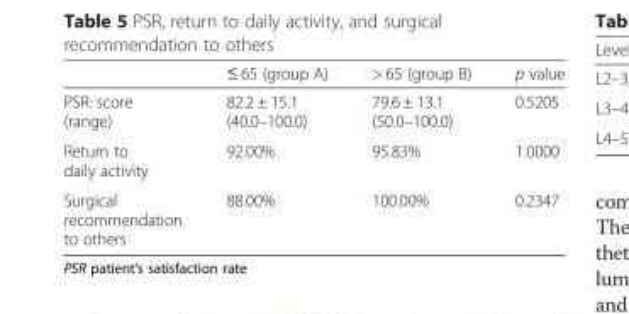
<table><thead><tr><td></td><td>≤ 65 (group A)</td><td>&gt; 65 (group B)</td><td>p value</td></tr></thead><tbody><tr><td>PSR: score (range)</td><td>82.2 ± 15.1 (40.0–100.0)</td><td>79.6 ± 13.1 (50.0–100.0)</td><td>0.5205</td></tr><tr><td>Return to daily activity</td><td>92.00%</td><td>95.83%</td><td>1.0000</td></tr><tr><td>Surgical recommendation to others</td><td>88.00%</td><td>100.00%</td><td>0.2347</td></tr></tbody></table>